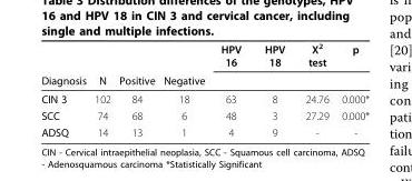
<table><thead><tr><td rowspan="2">Diagnosis</td><td rowspan="2">N</td><td rowspan="2">Positive</td><td rowspan="2">Negative</td><td rowspan="2">HPV 16</td><td rowspan="2">HPV 18</td><td rowspan="2">Χ<sup>2</sup> test</td><td rowspan="2">p</td></tr><tr></tr></thead><tbody><tr><td>CIN 3</td><td>102</td><td>84</td><td>18</td><td>63</td><td>8</td><td>24.76</td><td>0.000*</td></tr><tr><td>SCC</td><td>74</td><td>68</td><td>6</td><td>48</td><td>3</td><td>27.29</td><td>0.000*</td></tr><tr><td>ADSQ</td><td>14</td><td>13</td><td>1</td><td>4</td><td>9</td><td>-</td><td>-</td></tr></tbody></table>